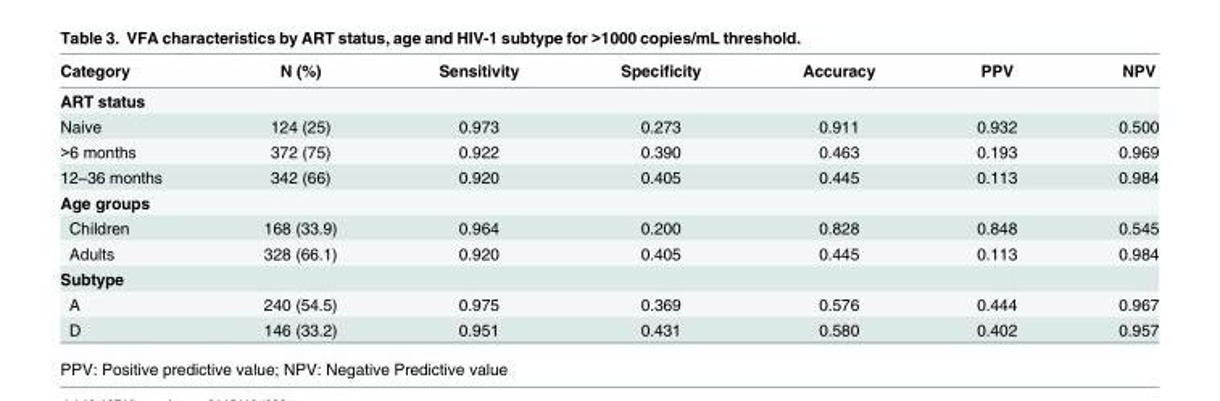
<table><thead><tr><td>Category</td><td>N (%)</td><td>Sensitivity</td><td>Specificity</td><td>Accuracy</td><td>PPV</td><td>NPV</td></tr></thead><tbody><tr><td colspan="7">ART status</td></tr><tr><td>Naive</td><td>124 (25)</td><td>0.973</td><td>0.273</td><td>0.911</td><td>0.932</td><td>0.500</td></tr><tr><td>&gt;6 months</td><td>372 (75)</td><td>0.922</td><td>0.390</td><td>0.463</td><td>0.193</td><td>0.969</td></tr><tr><td>12–36 months</td><td>342 (66)</td><td>0.920</td><td>0.405</td><td>0.445</td><td>0.113</td><td>0.984</td></tr><tr><td colspan="7">Age groups</td></tr><tr><td>Children</td><td>168 (33.9)</td><td>0.964</td><td>0.200</td><td>0.828</td><td>0.848</td><td>0.545</td></tr><tr><td>Adults</td><td>328 (66.1)</td><td>0.920</td><td>0.405</td><td>0.445</td><td>0.113</td><td>0.984</td></tr><tr><td colspan="7">Subtype</td></tr><tr><td>A</td><td>240 (54.5)</td><td>0.975</td><td>0.369</td><td>0.576</td><td>0.444</td><td>0.967</td></tr><tr><td>D</td><td>146 (33.2)</td><td>0.951</td><td>0.431</td><td>0.580</td><td>0.402</td><td>0.957</td></tr></tbody></table>